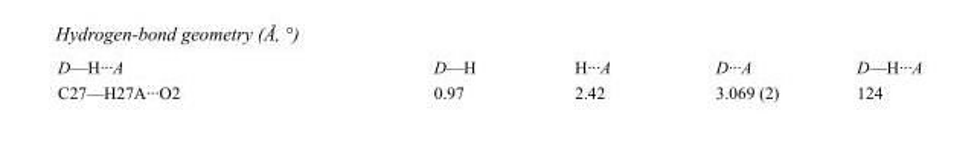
<table><tbody><tr><td>D—H···A</td><td>D—H</td><td>H···A</td><td>D···A</td><td>D—H···A</td></tr><tr><td>C27—H27A···O2</td><td>0.97</td><td>2.42</td><td>3.069 (2)</td><td>124</td></tr></tbody></table>